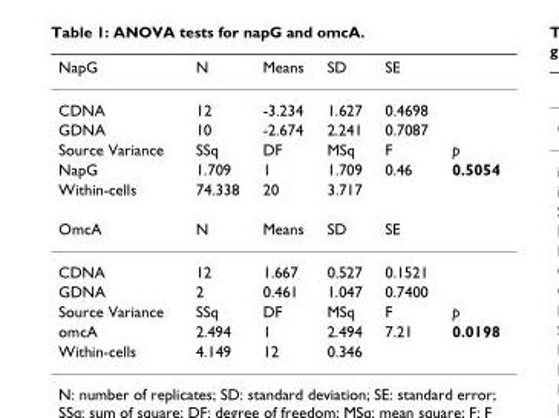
<table><thead><tr><td>NapG</td><td>N</td><td>Means</td><td>SD</td><td>SE</td><td></td></tr></thead><tbody><tr><td>CDNA</td><td>12</td><td>-3.234</td><td>1.627</td><td>0.4698</td><td></td></tr><tr><td>GDNA</td><td>10</td><td>-2.674</td><td>2.241</td><td>0.7087</td><td></td></tr><tr><td>Source Variance</td><td>SSq</td><td>DF</td><td>MSq</td><td>F</td><td>p</td></tr><tr><td>NapG</td><td>1.709</td><td>1</td><td>1.709</td><td>0.46</td><td>0.5054</td></tr><tr><td>Within-cells</td><td>74.338</td><td>20</td><td>3.717</td><td></td><td></td></tr><tr><td>OmcA</td><td>N</td><td>Means</td><td>SD</td><td>SE</td><td></td></tr><tr><td>CDNA</td><td>12</td><td>1.667</td><td>0.527</td><td>0.1521</td><td></td></tr><tr><td>GDNA</td><td>2</td><td>0.461</td><td>1.047</td><td>0.7400</td><td></td></tr><tr><td>Source Variance</td><td>SSq</td><td>DF</td><td>MSq</td><td>F</td><td>p</td></tr><tr><td>omcA</td><td>2.494</td><td>1</td><td>2.494</td><td>7.21</td><td>0.0198</td></tr><tr><td>Within-cells</td><td>4.149</td><td>12</td><td>0.346</td><td></td><td></td></tr></tbody></table>